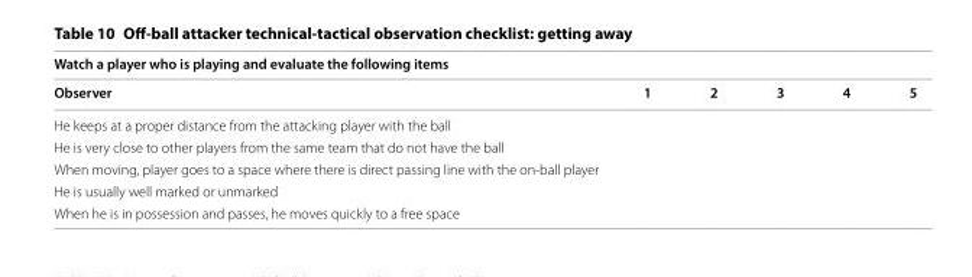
<table><thead><tr><td colspan="6">Watch a player who is playing and evaluate the following items</td></tr><tr><td>Observer</td><td>1</td><td>2</td><td>3</td><td>4</td><td>5</td></tr></thead><tbody><tr><td colspan="6">He keeps at a proper distance from the attacking player with the ball</td></tr><tr><td colspan="6">He is very close to other players from the same team that do not have the ball</td></tr><tr><td colspan="6">When moving, player goes to a space where there is direct passing line with the on‑ball player</td></tr><tr><td colspan="6">He is usually well marked or unmarked</td></tr><tr><td>When he is in possession and passes, he moves quickly to a free space</td><td></td><td></td><td></td><td></td><td></td></tr></tbody></table>